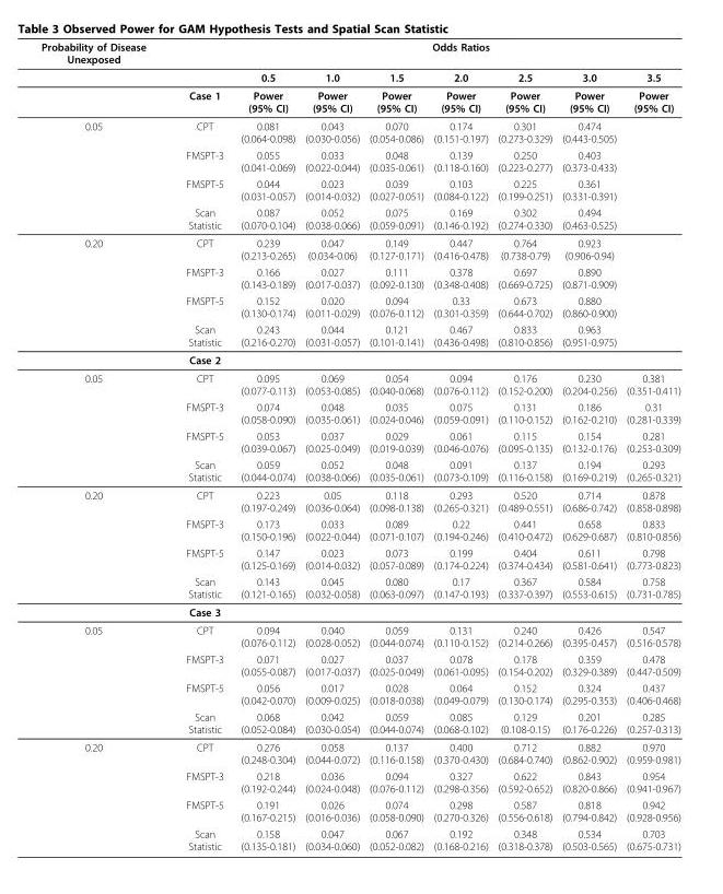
<table><thead><tr><td rowspan="2">Probability of Disease Unexposed</td><td rowspan="2"></td><td colspan="7">Odds Ratios</td></tr><tr><td>0.5</td><td>1.0</td><td>1.5</td><td>2.0</td><td>2.5</td><td>3.0</td><td>3.5</td></tr></thead><tbody><tr><td></td><td>Case 1</td><td>Power (95% CI)</td><td>Power (95% CI)</td><td>Power (95% CI)</td><td>Power (95% CI)</td><td>Power (95% CI)</td><td>Power (95% CI)</td><td>Power (95% CI)</td></tr><tr><td rowspan="4">0.05</td><td>CPT</td><td>0.081 (0.064-0.098)</td><td>0.043 (0.030-0.056)</td><td>0.070 (0.054-0.086)</td><td>0.174 (0.151-0.197)</td><td>0.301 (0.273-0.329)</td><td>0.474 (0.443-0.505)</td><td></td></tr><tr><td>FMSPT-3</td><td>0.055 (0.041-0.069)</td><td>0.033 (0.022-0.044)</td><td>0.048 (0.035-0.061)</td><td>0.139 (0.118-0.160)</td><td>0.250 (0.223-0.277)</td><td>0.403 (0.373-0.433)</td><td></td></tr><tr><td>FMSPT-5</td><td>0.044 (0.031-0.057)</td><td>0.023 (0.014-0.032)</td><td>0.039 (0.027-0.051)</td><td>0.103 (0.084-0.122)</td><td>0.225 (0.199-0.251)</td><td>0.361 (0.331-0.391)</td><td></td></tr><tr><td>Scan Statistic</td><td>0.087 (0.070-0.104)</td><td>0.052 (0.038-0.066)</td><td>0.075 (0.059-0.091)</td><td>0.169 (0.146-0.192)</td><td>0.302 (0.274-0.330)</td><td>0.494 (0.463-0.525)</td><td></td></tr><tr><td rowspan="5">0.20</td><td>CPT</td><td>0.239 (0.213-0.265)</td><td>0.047 (0.034-0.06)</td><td>0.149 (0.127-0.171)</td><td>0.447 (0.416-0.478)</td><td>0.764 (0.738-0.79)</td><td>0.923 (0.906-0.94)</td><td></td></tr><tr><td>FMSPT-3</td><td>0.166 (0.143-0.189)</td><td>0.027 (0.017-0.037)</td><td>0.111 (0.092-0.130)</td><td>0.378 (0.348-0.408)</td><td>0.697 (0.669-0.725)</td><td>0.890 (0.871-0.909)</td><td></td></tr><tr><td>FMSPT-5</td><td>0.152 (0.130-0.174)</td><td>0.020 (0.011-0.029)</td><td>0.094 (0.076-0.112)</td><td>0.33 (0.301-0.359)</td><td>0.673 (0.644-0.702)</td><td>0.880 (0.860-0.900)</td><td></td></tr><tr><td>Scan Statistic</td><td>0.243 (0.216-0.270)</td><td>0.044 (0.031-0.057)</td><td>0.121 (0.101-0.141)</td><td>0.467 (0.436-0.498)</td><td>0.833 (0.810-0.856)</td><td>0.963 (0.951-0.975)</td><td></td></tr><tr><td>Case 2</td><td></td><td></td><td></td><td></td><td></td><td></td><td></td></tr><tr><td rowspan="4">0.05</td><td>CPT</td><td>0.095 (0.077-0.113)</td><td>0.069 (0.053-0.085)</td><td>0.054 (0.040-0.068)</td><td>0.094 (0.076-0.112)</td><td>0.176 (0.152-0.200)</td><td>0.230 (0.204-0.256)</td><td>0.381 (0.351-0.411)</td></tr><tr><td>FMSPT-3</td><td>0.074 (0.058-0.090)</td><td>0.048 (0.035-0.061)</td><td>0.035 (0.024-0.046)</td><td>0.075 (0.059-0.091)</td><td>0.131 (0.110-0.152)</td><td>0.186 (0.162-0.210)</td><td>0.31 (0.281-0.339)</td></tr><tr><td>FMSPT-5</td><td>0.053 (0.039-0.067)</td><td>0.037 (0.025-0.049)</td><td>0.029 (0.019-0.039)</td><td>0.061 (0.046-0.076)</td><td>0.115 (0.095-0.135)</td><td>0.154 (0.132-0.176)</td><td>0.281 (0.253-0.309)</td></tr><tr><td>Scan Statistic</td><td>0.059 (0.044-0.074)</td><td>0.052 (0.038-0.066)</td><td>0.048 (0.035-0.061)</td><td>0.091 (0.073-0.109)</td><td>0.137 (0.116-0.158)</td><td>0.194 (0.169-0.219)</td><td>0.293 (0.265-0.321)</td></tr><tr><td rowspan="5">0.20</td><td>CPT</td><td>0.223 (0.197-0.249)</td><td>0.05 (0.036-0.064)</td><td>0.118 (0.098-0.138)</td><td>0.293 (0.265-0.321)</td><td>0.520 (0.489-0.551)</td><td>0.714 (0.686-0.742)</td><td>0.878 (0.858-0.898)</td></tr><tr><td>FMSPT-3</td><td>0.173 (0.150-0.196)</td><td>0.033 (0.022-0.044)</td><td>0.089 (0.071-0.107)</td><td>0.22 (0.194-0.246)</td><td>0.441 (0.410-0.472)</td><td>0.658 (0.629-0.687)</td><td>0.833 (0.810-0.856)</td></tr><tr><td>FMSPT-5</td><td>0.147 (0.125-0.169)</td><td>0.023 (0.014-0.032)</td><td>0.073 (0.057-0.089)</td><td>0.199 (0.174-0.224)</td><td>0.404 (0.374-0.434)</td><td>0.611 (0.581-0.641)</td><td>0.798 (0.773-0.823)</td></tr><tr><td>Scan Statistic</td><td>0.143 (0.121-0.165)</td><td>0.045 (0.032-0.058)</td><td>0.080 (0.063-0.097)</td><td>0.17 (0.147-0.193)</td><td>0.367 (0.337-0.397)</td><td>0.584 (0.553-0.615)</td><td>0.758 (0.731-0.785)</td></tr><tr><td>Case 3</td><td></td><td></td><td></td><td></td><td></td><td></td><td></td></tr><tr><td rowspan="4">0.05</td><td>CPT</td><td>0.094 (0.076-0.112)</td><td>0.040 (0.028-0.052)</td><td>0.059 (0.044-0.074)</td><td>0.131 (0.110-0.152)</td><td>0.240 (0.214-0.266)</td><td>0.426 (0.395-0.457)</td><td>0.547 (0.516-0.578)</td></tr><tr><td>FMSPT-3</td><td>0.071 (0.055-0.087)</td><td>0.027 (0.017-0.037)</td><td>0.037 (0.025-0.049)</td><td>0.078 (0.061-0.095)</td><td>0.178 (0.154-0.202)</td><td>0.359 (0.329-0.389)</td><td>0.478 (0.447-0.509)</td></tr><tr><td>FMSPT-5</td><td>0.056 (0.042-0.070)</td><td>0.017 (0.009-0.025)</td><td>0.028 (0.018-0.038)</td><td>0.064 (0.049-0.079)</td><td>0.152 (0.130-0.174)</td><td>0.324 (0.295-0.353)</td><td>0.437 (0.406-0.468)</td></tr><tr><td>Scan Statistic</td><td>0.068 (0.052-0.084)</td><td>0.042 (0.030-0.054)</td><td>0.059 (0.044-0.074)</td><td>0.085 (0.068-0.102)</td><td>0.129 (0.108-0.15)</td><td>0.201 (0.176-0.226)</td><td>0.285 (0.257-0.313)</td></tr><tr><td rowspan="4">0.20</td><td>CPT</td><td>0.276 (0.248-0.304)</td><td>0.058 (0.044-0.072)</td><td>0.137 (0.116-0.158)</td><td>0.400 (0.370-0.430)</td><td>0.712 (0.684-0.740)</td><td>0.882 (0.862-0.902)</td><td>0.970 (0.959-0.981)</td></tr><tr><td>FMSPT-3</td><td>0.218 (0.192-0.244)</td><td>0.036 (0.024-0.048)</td><td>0.094 (0.076-0.112)</td><td>0.327 (0.298-0.356)</td><td>0.622 (0.592-0.652)</td><td>0.843 (0.820-0.866)</td><td>0.954 (0.941-0.967)</td></tr><tr><td>FMSPT-5</td><td>0.191 (0.167-0.215)</td><td>0.026 (0.016-0.036)</td><td>0.074 (0.058-0.090)</td><td>0.298 (0.270-0.326)</td><td>0.587 (0.556-0.618)</td><td>0.818 (0.794-0.842)</td><td>0.942 (0.928-0.956)</td></tr><tr><td>Scan Statistic</td><td>0.158 (0.135-0.181)</td><td>0.047 (0.034-0.060)</td><td>0.067 (0.052-0.082)</td><td>0.192 (0.168-0.216)</td><td>0.348 (0.318-0.378)</td><td>0.534 (0.503-0.565)</td><td>0.703 (0.675-0.731)</td></tr></tbody></table>